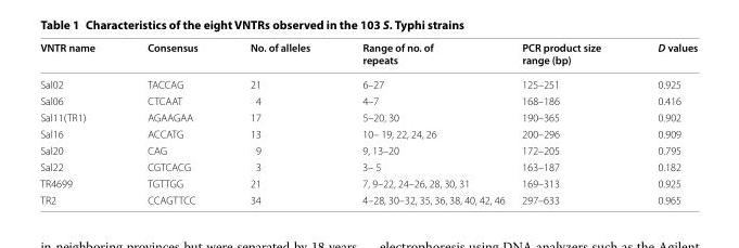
<table><thead><tr><td>VNTR name</td><td>Consensus</td><td>No. of alleles</td><td>Range of no. of repeats</td><td>PCR product size range (bp)</td><td>D values</td></tr></thead><tbody><tr><td>Sal02</td><td>TACCAG</td><td>21</td><td>6–27</td><td>125–251</td><td>0.925</td></tr><tr><td>Sal06</td><td>CTCAAT</td><td>4</td><td>4–7</td><td>168–186</td><td>0.416</td></tr><tr><td>Sal11(TR1)</td><td>AGAAGAA</td><td>17</td><td>5–20, 30</td><td>190–365</td><td>0.902</td></tr><tr><td>Sal16</td><td>ACCATG</td><td>13</td><td>10– 19, 22, 24, 26</td><td>200–296</td><td>0.909</td></tr><tr><td>Sal20</td><td>CAG</td><td>9</td><td>9, 13–20</td><td>172–205</td><td>0.795</td></tr><tr><td>Sal22</td><td>CGTCACG</td><td>3</td><td>3– 5</td><td>163–187</td><td>0.182</td></tr><tr><td>TR4699</td><td>TGTTGG</td><td>21</td><td>7, 9–22, 24–26, 28, 30, 31</td><td>169–313</td><td>0.925</td></tr><tr><td>TR2</td><td>CCAGTTCC</td><td>34</td><td>4–28, 30–32, 35, 36, 38, 40, 42, 46</td><td>297–633</td><td>0.965</td></tr></tbody></table>